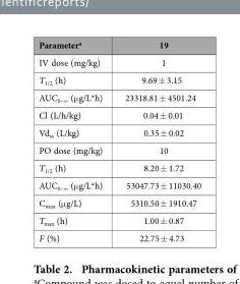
<table><thead><tr><td>Parameter<sup>a</sup></td><td>19</td></tr></thead><tbody><tr><td>IV dose (mg/kg)</td><td>1</td></tr><tr><td>T<sub>1/2</sub> (h)</td><td>9.69 ± 3.15</td></tr><tr><td>AUC<sub>0–∞</sub> (μ g/L*h)</td><td>23318.81 ± 4501.24</td></tr><tr><td>Cl (L/h/kg)</td><td>0.04 ± 0.01</td></tr><tr><td>Vd<sub>ss</sub> (L/kg)</td><td>0.35 ± 0.02</td></tr><tr><td>PO dose (mg/kg)</td><td>10</td></tr><tr><td>T<sub>1/2</sub> (h)</td><td>8.20 ± 1.72</td></tr><tr><td>AUC<sub>0–∞</sub> (μ g/L*h)</td><td>53047.73 ± 11030.40</td></tr><tr><td>C<sub>max</sub> (μ g/L)</td><td>5310.50 ± 1910.47</td></tr><tr><td>T<sub>max</sub> (h)</td><td>1.00 ± 0.87</td></tr><tr><td>F (%)</td><td>22.75 ± 4.73</td></tr></tbody></table>